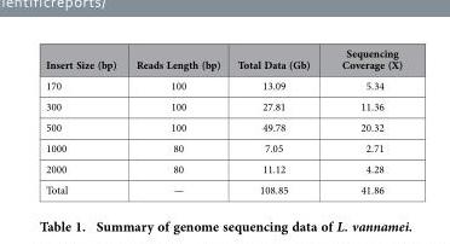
<table><thead><tr><td>Insert Size (bp)</td><td>Reads Length (bp)</td><td>Total Data (Gb)</td><td>Sequencing Coverage (X)</td></tr></thead><tbody><tr><td>170</td><td>100</td><td>13.09</td><td>5.34</td></tr><tr><td>300</td><td>100</td><td>27.81</td><td>11.36</td></tr><tr><td>500</td><td>100</td><td>49.78</td><td>20.32</td></tr><tr><td>1000</td><td>80</td><td>7.05</td><td>2.71</td></tr><tr><td>2000</td><td>80</td><td>11.12</td><td>4.28</td></tr><tr><td>Total</td><td>—</td><td>108.85</td><td>41.86</td></tr></tbody></table>